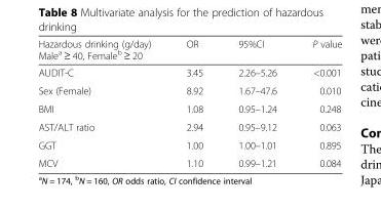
<table><thead><tr><td>Hazardous drinking (g/day) Male<sup>a</sup> ≥ 40, Female<sup>b</sup> ≥ 20</td><td>OR</td><td>95%CI</td><td>P value</td></tr></thead><tbody><tr><td>AUDIT-C</td><td>3.45</td><td>2.26–5.26</td><td>&lt;0.001</td></tr><tr><td>Sex (Female)</td><td>8.92</td><td>1.67–47.6</td><td>0.010</td></tr><tr><td>BMI</td><td>1.08</td><td>0.95–1.24</td><td>0.248</td></tr><tr><td>AST/ALT ratio</td><td>2.94</td><td>0.95–9.12</td><td>0.063</td></tr><tr><td>GGT</td><td>1.00</td><td>1.00–1.01</td><td>0.895</td></tr><tr><td>MCV</td><td>1.10</td><td>0.99–1.21</td><td>0.084</td></tr></tbody></table>